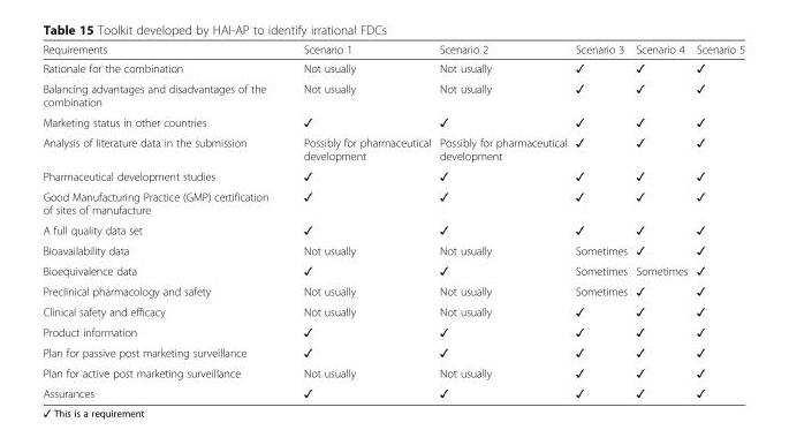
<table><thead><tr><td>Requirements</td><td>Scenario 1</td><td>Scenario 2</td><td>Scenario 3</td><td>Scenario 4</td><td>Scenario 5</td></tr></thead><tbody><tr><td>Rationale for the combination</td><td>Not usually</td><td>Not usually</td><td>✓</td><td>✓</td><td>✓</td></tr><tr><td>Balancing advantages and disadvantages of the combination</td><td>Not usually</td><td>Not usually</td><td>✓</td><td>✓</td><td>✓</td></tr><tr><td>Marketing status in other countries</td><td>✓</td><td>✓</td><td>✓</td><td>✓</td><td>✓</td></tr><tr><td>Analysis of literature data in the submission</td><td>Possibly for pharmaceutical development</td><td>Possibly for pharmaceutical development</td><td>✓</td><td>✓</td><td>✓</td></tr><tr><td>Pharmaceutical development studies</td><td>✓</td><td>✓</td><td>✓</td><td>✓</td><td>✓</td></tr><tr><td>Good Manufacturing Practice (GMP) certification of sites of manufacture</td><td>✓</td><td>✓</td><td>✓</td><td>✓</td><td>✓</td></tr><tr><td>A full quality data set</td><td>✓</td><td>✓</td><td>✓</td><td>✓</td><td>✓</td></tr><tr><td>Bioavailability data</td><td>Not usually</td><td>Not usually</td><td>Sometimes</td><td>✓</td><td>✓</td></tr><tr><td>Bioequivalence data</td><td>✓</td><td>✓</td><td>Sometimes</td><td>Sometimes</td><td>✓</td></tr><tr><td>Preclinical pharmacology and safety</td><td>Not usually</td><td>Not usually</td><td>Sometimes</td><td>✓</td><td>✓</td></tr><tr><td>Clinical safety and efficacy</td><td>Not usually</td><td>Not usually</td><td>✓</td><td>✓</td><td>✓</td></tr><tr><td>Product information</td><td>✓</td><td>✓</td><td>✓</td><td>✓</td><td>✓</td></tr><tr><td>Plan for passive post marketing surveillance</td><td>✓</td><td>✓</td><td>✓</td><td>✓</td><td>✓</td></tr><tr><td>Plan for active post marketing surveillance</td><td>Not usually</td><td>Not usually</td><td>✓</td><td>✓</td><td>✓</td></tr><tr><td>Assurances</td><td>✓</td><td>✓</td><td>✓</td><td>✓</td><td>✓</td></tr></tbody></table>